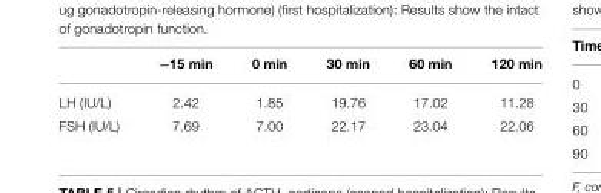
<table><thead><tr><td></td><td>−15 min</td><td>0 min</td><td>30 min</td><td>60 min</td><td>120 min</td></tr></thead><tbody><tr><td>LH (IU/L)</td><td>2.42</td><td>1.85</td><td>19.76</td><td>17.02</td><td>11.28</td></tr><tr><td>FSH (IU/L)</td><td>7.69</td><td>7.00</td><td>22.17</td><td>23.04</td><td>22.06</td></tr></tbody></table>